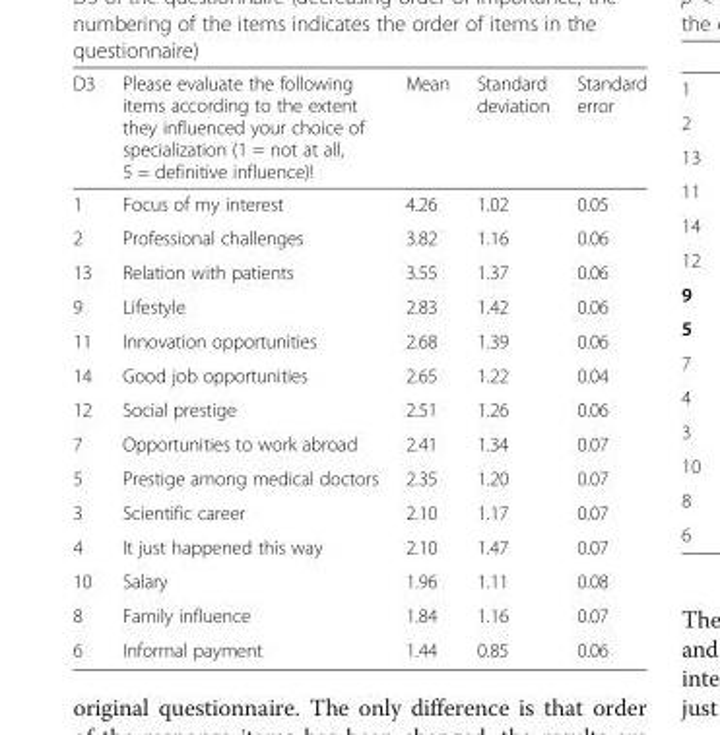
<table><thead><tr><td>D3</td><td>Please evaluate the following items according to the extent they influenced your choice of specialization (1 = not at all, 5 = definitive influence)!</td><td>Mean</td><td>Standard deviation</td><td>Standard error</td></tr></thead><tbody><tr><td>1</td><td>Focus of my interest</td><td>4.26</td><td>1.02</td><td>0.05</td></tr><tr><td>2</td><td>Professional challenges</td><td>3.82</td><td>1.16</td><td>0.06</td></tr><tr><td>13</td><td>Relation with patients</td><td>3.55</td><td>1.37</td><td>0.06</td></tr><tr><td>9</td><td>Lifestyle</td><td>2.83</td><td>1.42</td><td>0.06</td></tr><tr><td>11</td><td>Innovation opportunities</td><td>2.68</td><td>1.39</td><td>0.06</td></tr><tr><td>14</td><td>Good job opportunities</td><td>2.65</td><td>1.22</td><td>0.04</td></tr><tr><td>12</td><td>Social prestige</td><td>2.51</td><td>1.26</td><td>0.06</td></tr><tr><td>7</td><td>Opportunities to work abroad</td><td>2.41</td><td>1.34</td><td>0.07</td></tr><tr><td>5</td><td>Prestige among medical doctors</td><td>2.35</td><td>1.20</td><td>0.07</td></tr><tr><td>3</td><td>Scientific career</td><td>2.10</td><td>1.17</td><td>0.07</td></tr><tr><td>4</td><td>It just happened this way</td><td>2.10</td><td>1.47</td><td>0.07</td></tr><tr><td>10</td><td>Salary</td><td>1.96</td><td>1.11</td><td>0.08</td></tr><tr><td>8</td><td>Family influence</td><td>1.84</td><td>1.16</td><td>0.07</td></tr><tr><td>6</td><td>Informal payment</td><td>1.44</td><td>0.85</td><td>0.06</td></tr></tbody></table>